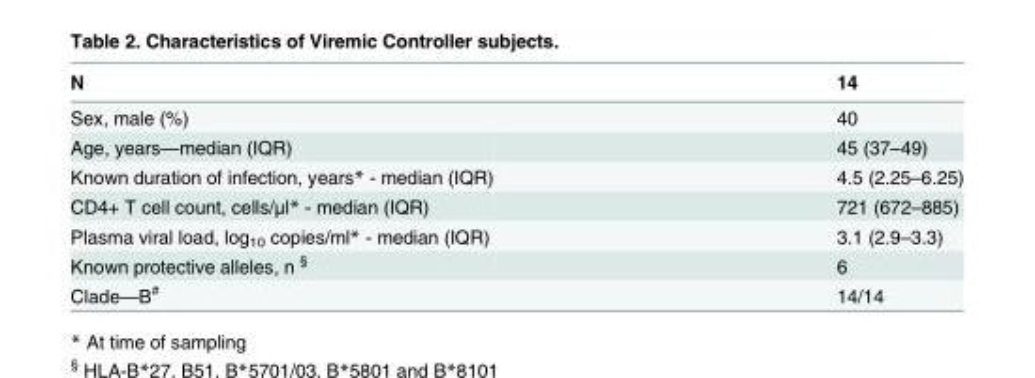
<table><thead><tr><td>N</td><td>14</td></tr></thead><tbody><tr><td>Sex, male (%)</td><td>40</td></tr><tr><td>Age, years—median (IQR)</td><td>45 (37–49)</td></tr><tr><td>Known duration of infection, years* - median (IQR)</td><td>4.5 (2.25–6.25)</td></tr><tr><td>CD4+ T cell count, cells/μl* - median (IQR)</td><td>721 (672–885)</td></tr><tr><td>Plasma viral load, log<sub>10</sub> copies/ml* - median (IQR)</td><td>3.1 (2.9–3.3)</td></tr><tr><td>Known protective alleles, n <sup>§</sup></td><td>6</td></tr><tr><td>Clade—B<sup>#</sup></td><td>14/14</td></tr></tbody></table>